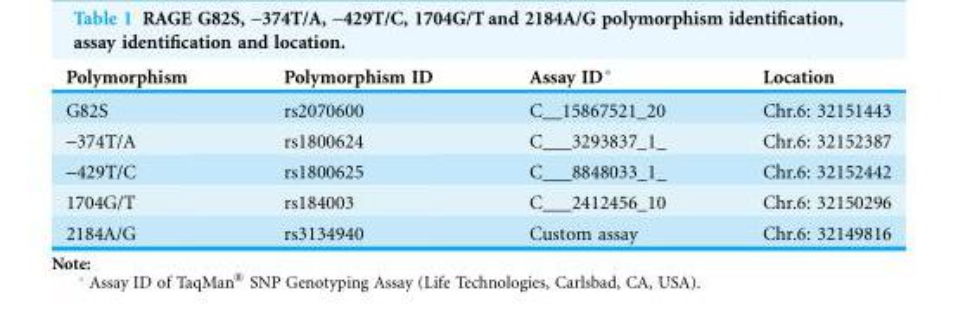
<table><thead><tr><td>Polymorphism</td><td>Polymorphism ID</td><td>Assay ID*</td><td>Location</td></tr></thead><tbody><tr><td>G82S</td><td>rs2070600</td><td>C__15867521_20</td><td>Chr.6: 32151443</td></tr><tr><td>-374T/A</td><td>rs1800624</td><td>C___3293837_1_</td><td>Chr.6: 32152387</td></tr><tr><td>-429T/C</td><td>rs1800625</td><td>C___8848033_1_</td><td>Chr.6: 32152442</td></tr><tr><td>1704G/T</td><td>rs184003</td><td>C___2412456_10</td><td>Chr.6: 32150296</td></tr><tr><td>2184A/G</td><td>rs3134940</td><td>Custom assay</td><td>Chr.6: 32149816</td></tr></tbody></table>